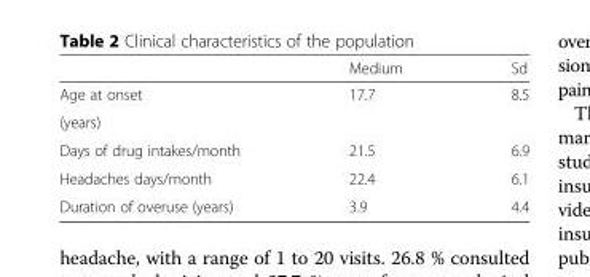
<table><thead><tr><td></td><td>Medium</td><td>Sd</td></tr></thead><tbody><tr><td>Age at onset</td><td rowspan="2">17.7</td><td rowspan="2">8.5</td></tr><tr><td>(years)</td></tr><tr><td>Days of drug intakes/month</td><td>21.5</td><td>6.9</td></tr><tr><td>Headaches days/month</td><td>22.4</td><td>6.1</td></tr><tr><td>Duration of overuse (years)</td><td>3.9</td><td>4.4</td></tr></tbody></table>